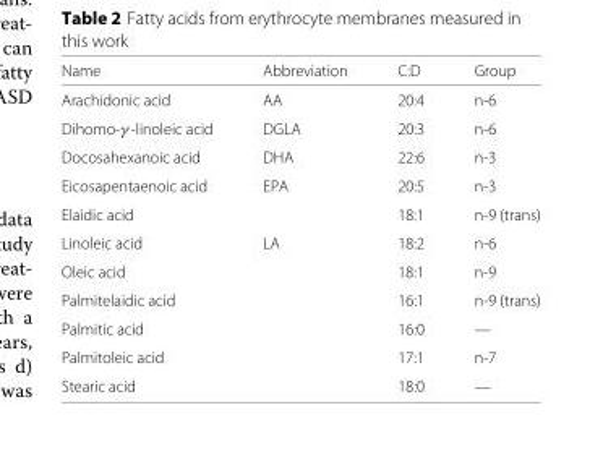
<table><thead><tr><td>Name</td><td>Abbreviation</td><td>C:D</td><td>Group</td></tr></thead><tbody><tr><td>Arachidonic acid</td><td>AA</td><td>20:4</td><td>n-6</td></tr><tr><td>Dihomo-γ -linoleic acid</td><td>DGLA</td><td>20:3</td><td>n-6</td></tr><tr><td>Docosahexanoic acid</td><td>DHA</td><td>22:6</td><td>n-3</td></tr><tr><td>Eicosapentaenoic acid</td><td>EPA</td><td>20:5</td><td>n-3</td></tr><tr><td>Elaidic acid</td><td></td><td>18:1</td><td>n-9 (trans)</td></tr><tr><td>Linoleic acid</td><td>LA</td><td>18:2</td><td>n-6</td></tr><tr><td>Oleic acid</td><td></td><td>18:1</td><td>n-9</td></tr><tr><td>Palmitelaidic acid</td><td></td><td>16:1</td><td>n-9 (trans)</td></tr><tr><td>Palmitic acid</td><td></td><td>16:0</td><td>—</td></tr><tr><td>Palmitoleic acid</td><td></td><td>17:1</td><td>n-7</td></tr><tr><td>Stearic acid</td><td></td><td>18:0</td><td>—</td></tr></tbody></table>